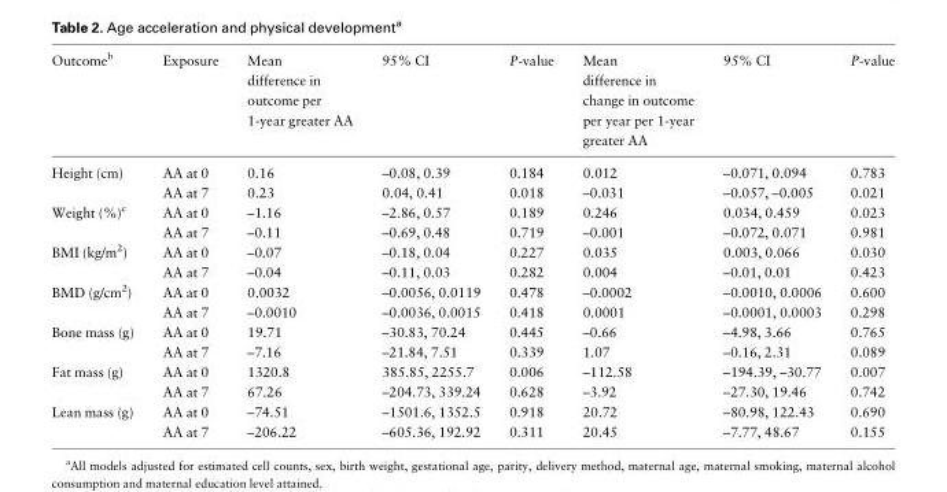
<table><thead><tr><td>Outcome<sup>b</sup></td><td>Exposure</td><td>Mean difference in outcome per 1-year greater AA</td><td>95% CI</td><td>P-value</td><td>Mean difference in change in outcome per year per 1-year greater AA</td><td>95% CI</td><td>P-value</td></tr></thead><tbody><tr><td rowspan="2">Height (cm)</td><td>AA at 0</td><td>0.16</td><td>–0.08, 0.39</td><td>0.184</td><td>0.012</td><td>–0.071, 0.094</td><td>0.783</td></tr><tr><td>AA at 7</td><td>0.23</td><td>0.04, 0.41</td><td>0.018</td><td>–0.031</td><td>–0.057, –0.005</td><td>0.021</td></tr><tr><td rowspan="2">Weight (%)<sup>c</sup></td><td>AA at 0</td><td>–1.16</td><td>–2.86, 0.57</td><td>0.189</td><td>0.246</td><td>0.034, 0.459</td><td>0.023</td></tr><tr><td>AA at 7</td><td>–0.11</td><td>–0.69, 0.48</td><td>0.719</td><td>–0.001</td><td>–0.072, 0.071</td><td>0.981</td></tr><tr><td rowspan="2">BMI (kg/m<sup>2</sup>)</td><td>AA at 0</td><td>–0.07</td><td>–0.18, 0.04</td><td>0.227</td><td>0.035</td><td>0.003, 0.066</td><td>0.030</td></tr><tr><td>AA at 7</td><td>–0.04</td><td>–0.11, 0.03</td><td>0.282</td><td>0.004</td><td>–0.01, 0.01</td><td>0.423</td></tr><tr><td rowspan="2">BMD (g/cm<sup>2</sup>)</td><td>AA at 0</td><td>0.0032</td><td>–0.0056, 0.0119</td><td>0.478</td><td>–0.0002</td><td>–0.0010, 0.0006</td><td>0.600</td></tr><tr><td>AA at 7</td><td>–0.0010</td><td>–0.0036, 0.0015</td><td>0.418</td><td>0.0001</td><td>–0.0001, 0.0003</td><td>0.298</td></tr><tr><td rowspan="2">Bone mass (g)</td><td>AA at 0</td><td>19.71</td><td>–30.83, 70.24</td><td>0.445</td><td>–0.66</td><td>–4.98, 3.66</td><td>0.765</td></tr><tr><td>AA at 7</td><td>–7.16</td><td>–21.84, 7.51</td><td>0.339</td><td>1.07</td><td>–0.16, 2.31</td><td>0.089</td></tr><tr><td rowspan="2">Fat mass (g)</td><td>AA at 0</td><td>1320.8</td><td>385.85, 2255.7</td><td>0.006</td><td>–112.58</td><td>–194.39, –30.77</td><td>0.007</td></tr><tr><td>AA at 7</td><td>67.26</td><td>–204.73, 339.24</td><td>0.628</td><td>–3.92</td><td>–27.30, 19.46</td><td>0.742</td></tr><tr><td rowspan="2">Lean mass (g)</td><td>AA at 0</td><td>–74.51</td><td>–1501.6, 1352.5</td><td>0.918</td><td>20.72</td><td>–80.98, 122.43</td><td>0.690</td></tr><tr><td>AA at 7</td><td>–206.22</td><td>–605.36, 192.92</td><td>0.311</td><td>20.45</td><td>–7.77, 48.67</td><td>0.155</td></tr></tbody></table>